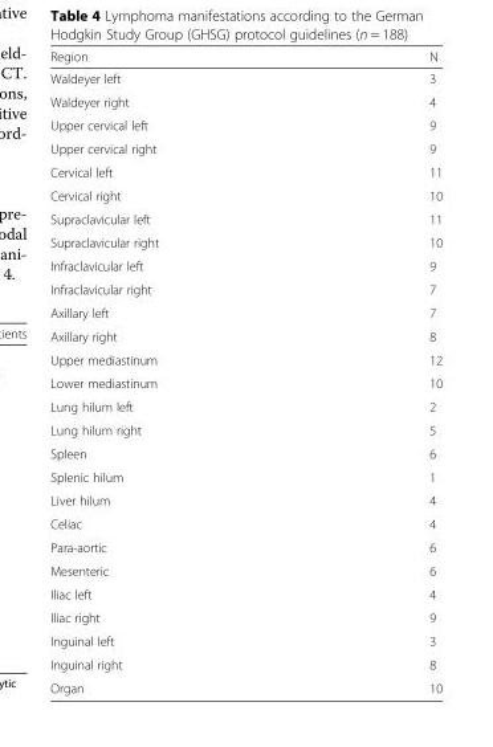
<table><thead><tr><td>Region</td><td>N</td></tr></thead><tbody><tr><td>Waldeyer left</td><td>3</td></tr><tr><td>Waldeyer right</td><td>4</td></tr><tr><td>Upper cervical left</td><td>9</td></tr><tr><td>Upper cervical right</td><td>9</td></tr><tr><td>Cervical left</td><td>11</td></tr><tr><td>Cervical right</td><td>10</td></tr><tr><td>Supraclavicular left</td><td>11</td></tr><tr><td>Supraclavicular right</td><td>10</td></tr><tr><td>Infraclavicular left</td><td>9</td></tr><tr><td>Infraclavicular right</td><td>7</td></tr><tr><td>Axillary left</td><td>7</td></tr><tr><td>Axillary right</td><td>8</td></tr><tr><td>Upper mediastinum</td><td>12</td></tr><tr><td>Lower mediastinum</td><td>10</td></tr><tr><td>Lung hilum left</td><td>2</td></tr><tr><td>Lung hilum right</td><td>5</td></tr><tr><td>Spleen</td><td>6</td></tr><tr><td>Splenic hilum</td><td>1</td></tr><tr><td>Liver hilum</td><td>4</td></tr><tr><td>Celiac</td><td>4</td></tr><tr><td>Para-aortic</td><td>6</td></tr><tr><td>Mesenteric</td><td>6</td></tr><tr><td>Iliac left</td><td>4</td></tr><tr><td>Iliac right</td><td>9</td></tr><tr><td>Inguinal left</td><td>3</td></tr><tr><td>Inguinal right</td><td>8</td></tr><tr><td>Organ</td><td>10</td></tr></tbody></table>